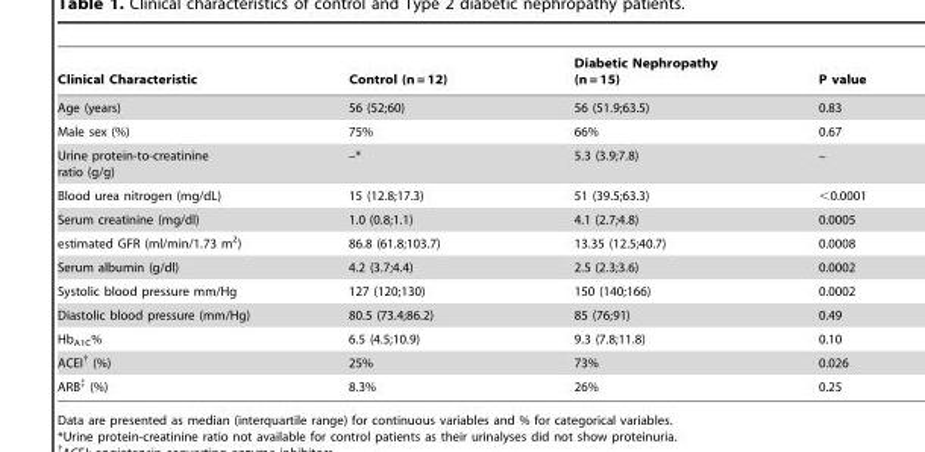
<table><thead><tr><td>Clinical Characteristic</td><td>Control (n = 12)</td><td>Diabetic Nephropathy (n = 15)</td><td>P value</td></tr></thead><tbody><tr><td>Age (years)</td><td>56 (52;60)</td><td>56 (51.9;63.5)</td><td>0.83</td></tr><tr><td>Male sex (%)</td><td>75%</td><td>66%</td><td>0.67</td></tr><tr><td>Urine protein-to-creatinine ratio (g/g)</td><td>–*</td><td>5.3 (3.9;7.8)</td><td>–</td></tr><tr><td>Blood urea nitrogen (mg/dL)</td><td>15 (12.8;17.3)</td><td>51 (39.5;63.3)</td><td>&lt;0.0001</td></tr><tr><td>Serum creatinine (mg/dl)</td><td>1.0 (0.8;1.1)</td><td>4.1 (2.7;4.8)</td><td>0.0005</td></tr><tr><td>estimated GFR (ml/min/1.73 m<sup>2</sup>)</td><td>86.8 (61.8;103.7)</td><td>13.35 (12.5;40.7)</td><td>0.0008</td></tr><tr><td>Serum albumin (g/dl)</td><td>4.2 (3.7;4.4)</td><td>2.5 (2.3;3.6)</td><td>0.0002</td></tr><tr><td>Systolic blood pressure mm/Hg</td><td>127 (120;130)</td><td>150 (140;166)</td><td>0.0002</td></tr><tr><td>Diastolic blood pressure (mm/Hg)</td><td>80.5 (73.4;86.2)</td><td>85 (76;91)</td><td>0.49</td></tr><tr><td>Hb<sub>A1C</sub>%</td><td>6.5 (4.5;10.9)</td><td>9.3 (7.8;11.8)</td><td>0.10</td></tr><tr><td>ACEI† (%)</td><td>25%</td><td>73%</td><td>0.026</td></tr><tr><td>ARB‡ (%)</td><td>8.3%</td><td>26%</td><td>0.25</td></tr></tbody></table>